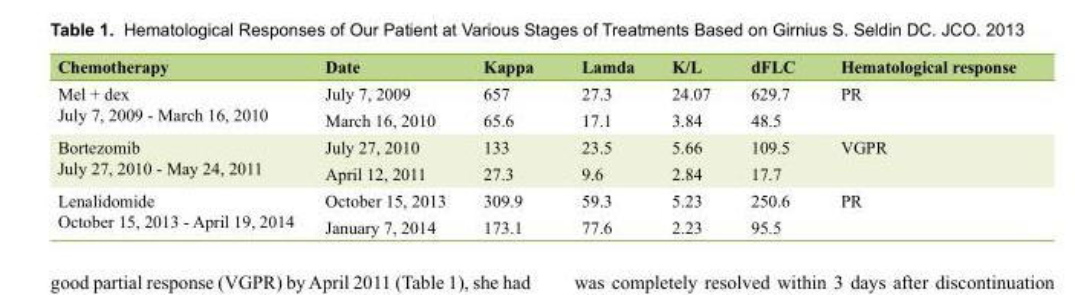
<table><thead><tr><td>Chemotherapy</td><td>Date</td><td>Kappa</td><td>Lamda</td><td>K/L</td><td>dFLC</td><td>Hematological response</td></tr></thead><tbody><tr><td rowspan="2">Mel + dex July 7, 2009 - March 16, 2010</td><td>July 7, 2009</td><td>657</td><td>27.3</td><td>24.07</td><td>629.7</td><td rowspan="2">PR</td></tr><tr><td>March 16, 2010</td><td>65.6</td><td>17.1</td><td>3.84</td><td>48.5</td></tr><tr><td rowspan="2">Bortezomib July 27, 2010 - May 24, 2011</td><td>July 27, 2010</td><td>133</td><td>23.5</td><td>5.66</td><td>109.5</td><td rowspan="2">VGPR</td></tr><tr><td>April 12, 2011</td><td>27.3</td><td>9.6</td><td>2.84</td><td>17.7</td></tr><tr><td rowspan="2">Lenalidomide October 15, 2013 - April 19, 2014</td><td>October 15, 2013</td><td>309.9</td><td>59.3</td><td>5.23</td><td>250.6</td><td rowspan="2">PR</td></tr><tr><td>January 7, 2014</td><td>173.1</td><td>77.6</td><td>2.23</td><td>95.5</td></tr></tbody></table>